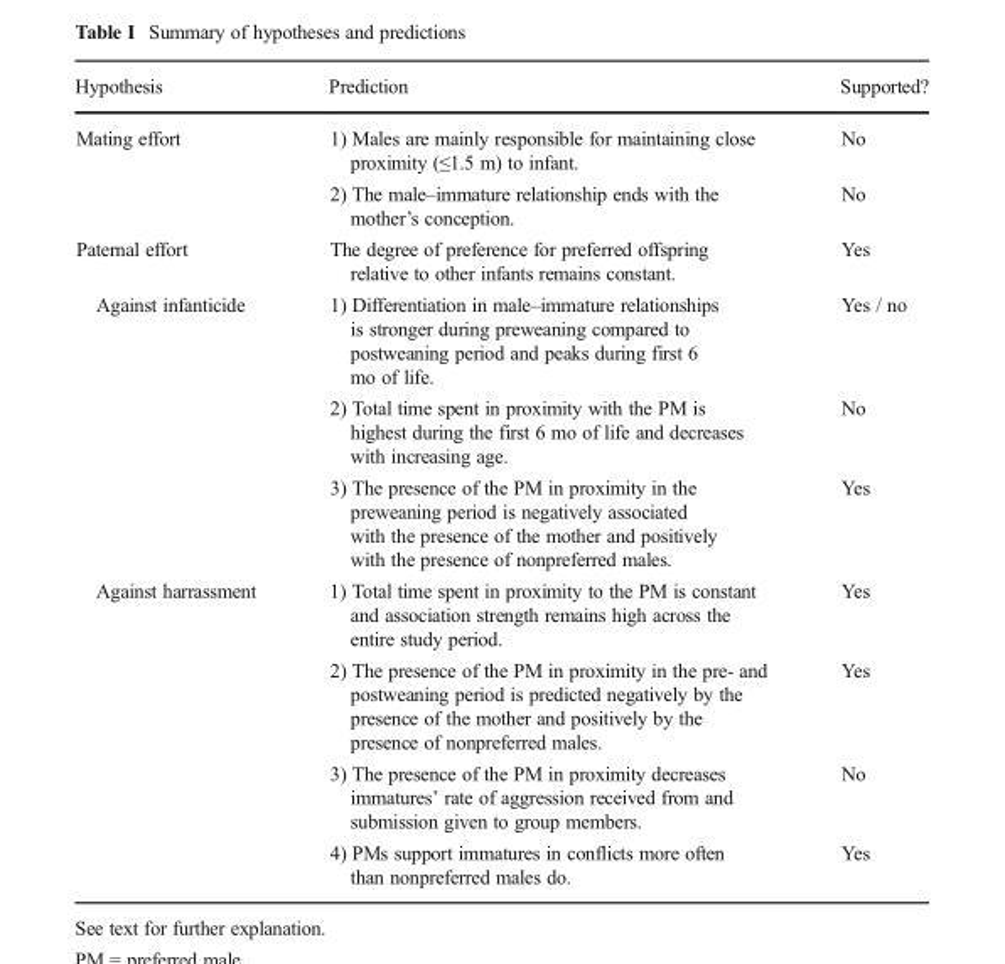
<table><thead><tr><td>Hypothesis</td><td>Prediction</td><td>Supported?</td></tr></thead><tbody><tr><td rowspan="2">Mating effort</td><td>1) Males are mainly responsible for maintaining close proximity (≤1.5 m) to infant.</td><td>No</td></tr><tr><td>2) The male–immature relationship ends with the mother’s conception.</td><td>No</td></tr><tr><td>Paternal effort</td><td>The degree of preference for preferred offspring relative to other infants remains constant.</td><td>Yes</td></tr><tr><td rowspan="3">Against infanticide</td><td>1) Differentiation in male–immature relationships is stronger during preweaning compared to postweaning period and peaks during first 6 mo of life.</td><td>Yes / no</td></tr><tr><td>2) Total time spent in proximity with the PM is highest during the first 6 mo of life and decreases with increasing age.</td><td>No</td></tr><tr><td>3) The presence of the PM in proximity in the preweaning period is negatively associated with the presence of the mother and positively with the presence of nonpreferred males.</td><td>Yes</td></tr><tr><td rowspan="4">Against harrassment</td><td>1) Total time spent in proximity to the PM is constant and association strength remains high across the entire study period.</td><td>Yes</td></tr><tr><td>2) The presence of the PM in proximity in the pre- and postweaning period is predicted negatively by the presence of the mother and positively by the presence of nonpreferred males.</td><td>Yes</td></tr><tr><td>3) The presence of the PM in proximity decreases immatures’ rate of aggression received from and submission given to group members.</td><td>No</td></tr><tr><td>4) PMs support immatures in conflicts more often than nonpreferred males do.</td><td>Yes</td></tr></tbody></table>